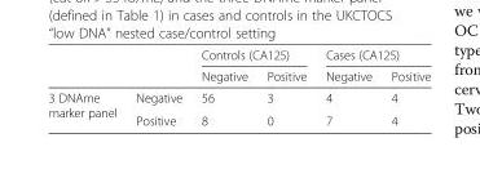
<table><thead><tr><td rowspan="2"></td><td rowspan="2"></td><td colspan="2">Controls (CA125)</td><td colspan="2">Cases (CA125)</td></tr><tr><td>Negative</td><td>Positive</td><td>Negative</td><td>Positive</td></tr></thead><tbody><tr><td rowspan="2">3 DNAme marker panel</td><td>Negative</td><td>56</td><td>3</td><td>4</td><td>4</td></tr><tr><td>Positive</td><td>8</td><td>0</td><td>7</td><td>4</td></tr></tbody></table>